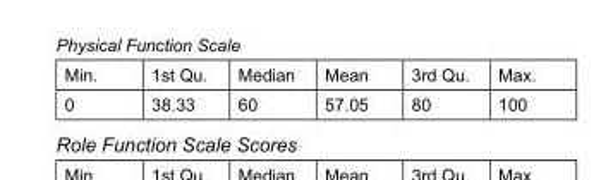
<table><tbody><tr><td>Min.</td><td>1st Qu.</td><td>Median</td><td>Mean</td><td>3rd Qu.</td><td>Max.</td></tr><tr><td>0</td><td>38.33</td><td>60</td><td>57.05</td><td>80</td><td>100</td></tr></tbody></table>